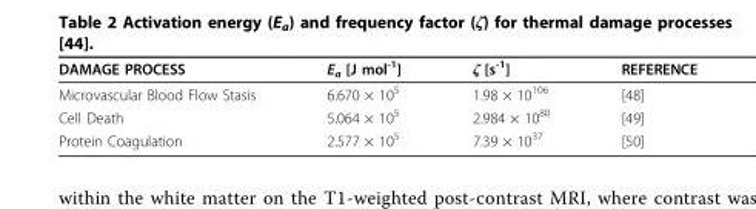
<table><thead><tr><td>DAMAGE PROCESS</td><td>E<sub>a</sub> [J mol<sup>-1</sup>]</td><td>ζ [s<sup>-1</sup>]</td><td>REFERENCE</td></tr></thead><tbody><tr><td>Microvascular Blood Flow Stasis</td><td>6.670 × 10<sup>5</sup></td><td>1.98 × 10<sup>106</sup></td><td>[48]</td></tr><tr><td>Cell Death</td><td>5.064 × 10<sup>5</sup></td><td>2.984 × 10<sup>80</sup></td><td>[49]</td></tr><tr><td>Protein Coagulation</td><td>2.577 × 10<sup>5</sup></td><td>7.39 × 10<sup>37</sup></td><td>[50]</td></tr></tbody></table>